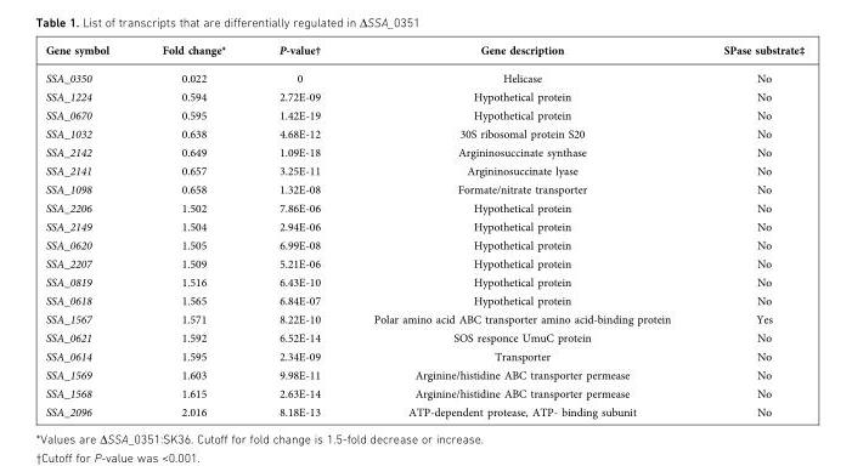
<table><thead><tr><td>Gene symbol</td><td>Fold change*</td><td>P-value†</td><td>Gene description</td><td>SPase substrate‡</td></tr></thead><tbody><tr><td>SSA_0350</td><td>0.022</td><td>0</td><td>Helicase</td><td>No</td></tr><tr><td>SSA_1224</td><td>0.594</td><td>2.72E-09</td><td>Hypothetical protein</td><td>No</td></tr><tr><td>SSA_0670</td><td>0.595</td><td>1.42E-19</td><td>Hypothetical protein</td><td>No</td></tr><tr><td>SSA_1032</td><td>0.638</td><td>4.68E-12</td><td>30S ribosomal protein S20</td><td>No</td></tr><tr><td>SSA_2142</td><td>0.649</td><td>1.09E-18</td><td>Argininosuccinate synthase</td><td>No</td></tr><tr><td>SSA_2141</td><td>0.657</td><td>3.25E-11</td><td>Argininosuccinate lyase</td><td>No</td></tr><tr><td>SSA_1098</td><td>0.658</td><td>1.32E-08</td><td>Formate/nitrate transporter</td><td>No</td></tr><tr><td>SSA_2206</td><td>1.502</td><td>7.86E-06</td><td>Hypothetical protein</td><td>No</td></tr><tr><td>SSA_2149</td><td>1.504</td><td>2.94E-06</td><td>Hypothetical protein</td><td>No</td></tr><tr><td>SSA_0620</td><td>1.505</td><td>6.99E-08</td><td>Hypothetical protein</td><td>No</td></tr><tr><td>SSA_2207</td><td>1.509</td><td>5.21E-06</td><td>Hypothetical protein</td><td>No</td></tr><tr><td>SSA_0819</td><td>1.516</td><td>6.43E-10</td><td>Hypothetical protein</td><td>No</td></tr><tr><td>SSA_0618</td><td>1.565</td><td>6.84E-07</td><td>Hypothetical protein</td><td>No</td></tr><tr><td>SSA_1567</td><td>1.571</td><td>8.22E-10</td><td>Polar amino acid ABC transporter amino acid-binding protein</td><td>Yes</td></tr><tr><td>SSA_0621</td><td>1.592</td><td>6.52E-14</td><td>SOS responce UmuC protein</td><td>No</td></tr><tr><td>SSA_0614</td><td>1.595</td><td>2.34E-09</td><td>Transporter</td><td>No</td></tr><tr><td>SSA_1569</td><td>1.603</td><td>9.98E-11</td><td>Arginine/histidine ABC transporter permease</td><td>No</td></tr><tr><td>SSA_1568</td><td>1.615</td><td>2.63E-14</td><td>Arginine/histidine ABC transporter permease</td><td>No</td></tr><tr><td>SSA_2096</td><td>2.016</td><td>8.18E-13</td><td>ATP-dependent protease, ATP- binding subunit</td><td>No</td></tr></tbody></table>